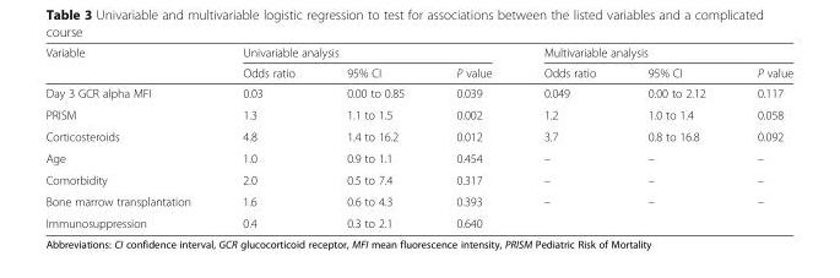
<table><thead><tr><td rowspan="2">Variable</td><td colspan="3">Univariable analysis</td><td colspan="3">Multivariable analysis</td></tr><tr><td>Odds ratio</td><td>95% CI</td><td>P value</td><td>Odds ratio</td><td>95% CI</td><td>P value</td></tr></thead><tbody><tr><td>Day 3 GCR alpha MFI</td><td>0.03</td><td>0.00 to 0.85</td><td>0.039</td><td>0.049</td><td>0.00 to 2.12</td><td>0.117</td></tr><tr><td>PRISM</td><td>1.3</td><td>1.1 to 1.5</td><td>0.002</td><td>1.2</td><td>1.0 to 1.4</td><td>0.058</td></tr><tr><td>Corticosteroids</td><td>4.8</td><td>1.4 to 16.2</td><td>0.012</td><td>3.7</td><td>0.8 to 16.8</td><td>0.092</td></tr><tr><td>Age</td><td>1.0</td><td>0.9 to 1.1</td><td>0.454</td><td>–</td><td>–</td><td>–</td></tr><tr><td>Comorbidity</td><td>2.0</td><td>0.5 to 7.4</td><td>0.317</td><td>–</td><td>–</td><td>–</td></tr><tr><td>Bone marrow transplantation</td><td>1.6</td><td>0.6 to 4.3</td><td>0.393</td><td>–</td><td>–</td><td>–</td></tr><tr><td>Immunosuppression</td><td>0.4</td><td>0.3 to 2.1</td><td>0.640</td><td></td><td></td><td></td></tr></tbody></table>